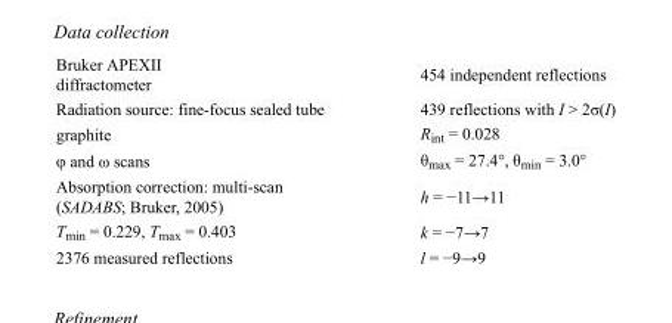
<table><tbody><tr><td>Bruker APEXII diffractometer</td><td>454 independent reflections</td></tr><tr><td>Radiation source: fine-focus sealed tube</td><td>439 reflections with I &gt; 2σ(I)</td></tr><tr><td>graphite</td><td>R<sub>int</sub> = 0.028</td></tr><tr><td>φ and ω scans</td><td>θ<sub>max</sub> = 27.4°, θ<sub>min</sub> = 3.0°</td></tr><tr><td>Absorption correction: multi-scan (SADABS; Bruker, 2005)</td><td>h = −11→11</td></tr><tr><td>T<sub>min</sub> = 0.229, T<sub>max</sub> = 0.403</td><td>k = −7→7</td></tr><tr><td>2376 measured reflections</td><td>l = −9→9</td></tr></tbody></table>